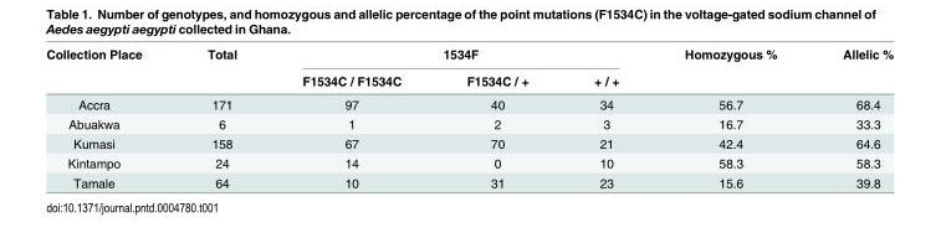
<table><thead><tr><td rowspan="2">Collection Place</td><td rowspan="2">Total</td><td colspan="3">1534F</td><td rowspan="2">Homozygous %</td><td rowspan="2">Allelic %</td></tr><tr><td>F1534C / F1534C</td><td>F1534C / +</td><td>+ / +</td></tr></thead><tbody><tr><td>Accra</td><td>171</td><td>97</td><td>40</td><td>34</td><td>56.7</td><td>68.4</td></tr><tr><td>Abuakwa</td><td>6</td><td>1</td><td>2</td><td>3</td><td>16.7</td><td>33.3</td></tr><tr><td>Kumasi</td><td>158</td><td>67</td><td>70</td><td>21</td><td>42.4</td><td>64.6</td></tr><tr><td>Kintampo</td><td>24</td><td>14</td><td>0</td><td>10</td><td>58.3</td><td>58.3</td></tr><tr><td>Tamale</td><td>64</td><td>10</td><td>31</td><td>23</td><td>15.6</td><td>39.8</td></tr></tbody></table>